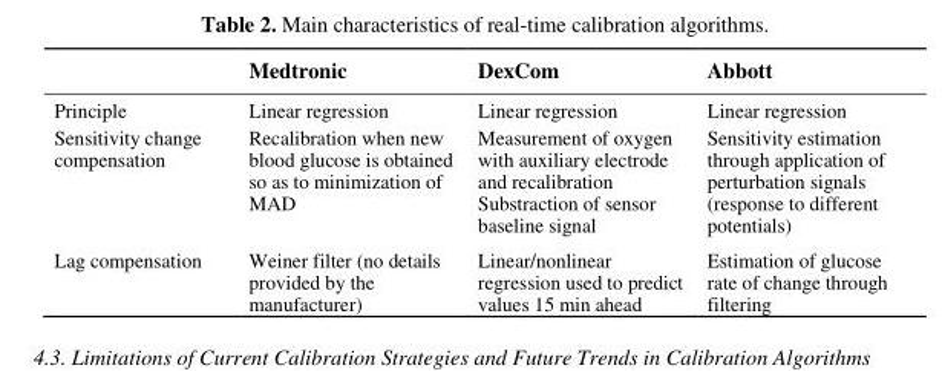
<table><thead><tr><td></td><td>Medtronic</td><td>DexCom</td><td>Abbott</td></tr></thead><tbody><tr><td>Principle</td><td>Linear regression</td><td>Linear regression</td><td>Linear regression</td></tr><tr><td>Sensitivity change compensation</td><td>Recalibration when new blood glucose is obtained so as to minimization of MAD</td><td>Measurement of oxygen with auxiliary electrode and recalibration Substraction of sensor baseline signal</td><td>Sensitivity estimation through application of perturbation signals (response to different potentials)</td></tr><tr><td>Lag compensation</td><td>Weiner filter (no details provided by the manufacturer)</td><td>Linear/nonlinear regression used to predict values 15 min ahead</td><td>Estimation of glucose rate of change through filtering</td></tr></tbody></table>